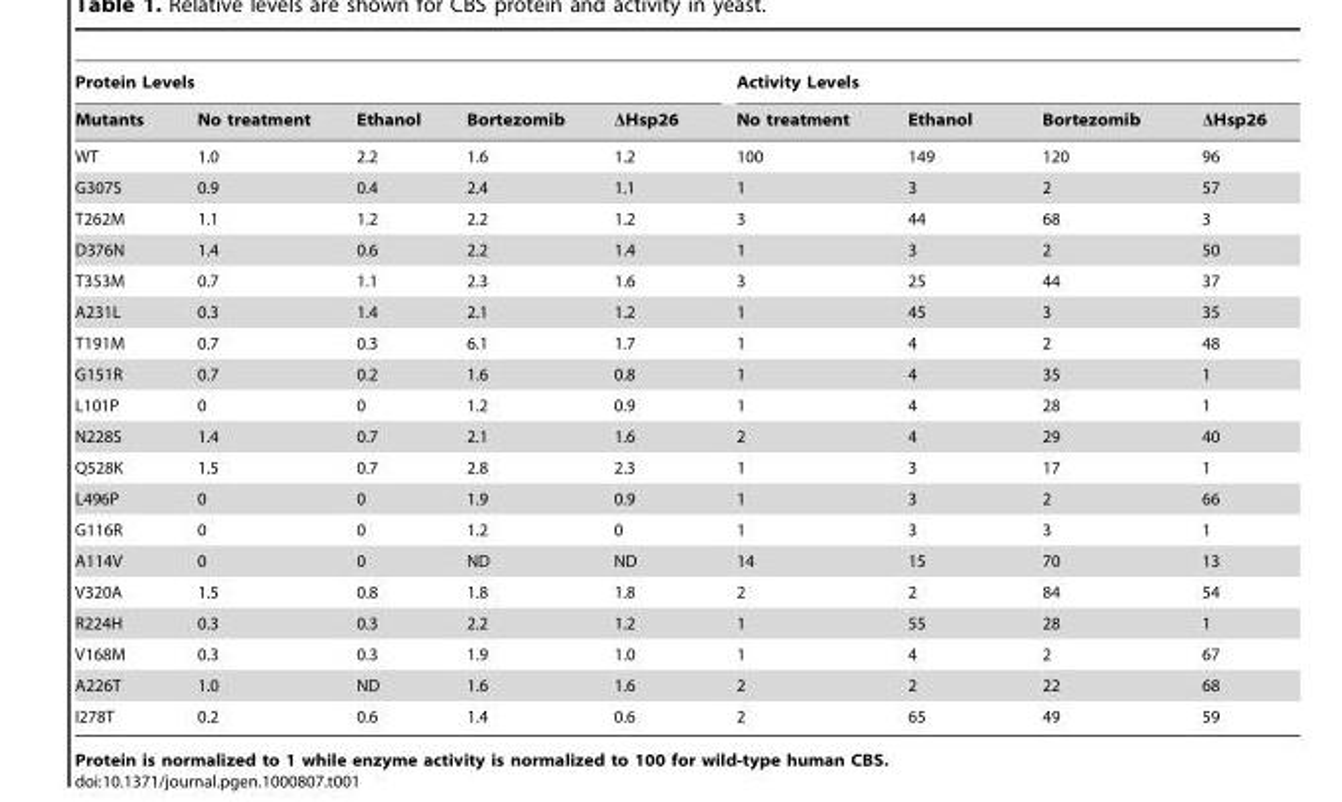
<table><thead><tr><td colspan="5">Protein Levels</td><td colspan="4">Activity Levels</td></tr><tr><td>Mutants</td><td>No treatment</td><td>Ethanol</td><td>Bortezomib</td><td>ΔHsp26</td><td>No treatment</td><td>Ethanol</td><td>Bortezomib</td><td>ΔHsp26</td></tr></thead><tbody><tr><td>WT</td><td>1.0</td><td>2.2</td><td>1.6</td><td>1.2</td><td>100</td><td>149</td><td>120</td><td>96</td></tr><tr><td>G307S</td><td>0.9</td><td>0.4</td><td>2.4</td><td>1.1</td><td>1</td><td>3</td><td>2</td><td>57</td></tr><tr><td>T262M</td><td>1.1</td><td>1.2</td><td>2.2</td><td>1.2</td><td>3</td><td>44</td><td>68</td><td>3</td></tr><tr><td>D376N</td><td>1.4</td><td>0.6</td><td>2.2</td><td>1.4</td><td>1</td><td>3</td><td>2</td><td>50</td></tr><tr><td>T353M</td><td>0.7</td><td>1.1</td><td>2.3</td><td>1.6</td><td>3</td><td>25</td><td>44</td><td>37</td></tr><tr><td>A231L</td><td>0.3</td><td>1.4</td><td>2.1</td><td>1.2</td><td>1</td><td>45</td><td>3</td><td>35</td></tr><tr><td>T191M</td><td>0.7</td><td>0.3</td><td>6.1</td><td>1.7</td><td>1</td><td>4</td><td>2</td><td>48</td></tr><tr><td>G151R</td><td>0.7</td><td>0.2</td><td>1.6</td><td>0.8</td><td>1</td><td>4</td><td>35</td><td>1</td></tr><tr><td>L101P</td><td>0</td><td>0</td><td>1.2</td><td>0.9</td><td>1</td><td>4</td><td>28</td><td>1</td></tr><tr><td>N228S</td><td>1.4</td><td>0.7</td><td>2.1</td><td>1.6</td><td>2</td><td>4</td><td>29</td><td>40</td></tr><tr><td>Q528K</td><td>1.5</td><td>0.7</td><td>2.8</td><td>2.3</td><td>1</td><td>3</td><td>17</td><td>1</td></tr><tr><td>L496P</td><td>0</td><td>0</td><td>1.9</td><td>0.9</td><td>1</td><td>3</td><td>2</td><td>66</td></tr><tr><td>G116R</td><td>0</td><td>0</td><td>1.2</td><td>0</td><td>1</td><td>3</td><td>3</td><td>1</td></tr><tr><td>A114V</td><td>0</td><td>0</td><td>ND</td><td>ND</td><td>14</td><td>15</td><td>70</td><td>13</td></tr><tr><td>V320A</td><td>1.5</td><td>0.8</td><td>1.8</td><td>1.8</td><td>2</td><td>2</td><td>84</td><td>54</td></tr><tr><td>R224H</td><td>0.3</td><td>0.3</td><td>2.2</td><td>1.2</td><td>1</td><td>55</td><td>28</td><td>1</td></tr><tr><td>V168M</td><td>0.3</td><td>0.3</td><td>1.9</td><td>1.0</td><td>1</td><td>4</td><td>2</td><td>67</td></tr><tr><td>A226T</td><td>1.0</td><td>ND</td><td>1.6</td><td>1.6</td><td>2</td><td>2</td><td>22</td><td>68</td></tr><tr><td>I278T</td><td>0.2</td><td>0.6</td><td>1.4</td><td>0.6</td><td>2</td><td>65</td><td>49</td><td>59</td></tr></tbody></table>